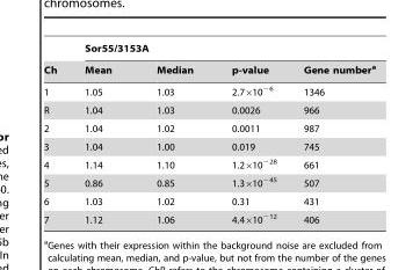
<table><thead><tr><td rowspan="2">Ch</td><td colspan="4">Sor55/3153A</td></tr><tr><td>Mean</td><td>Median</td><td>p-value</td><td>Gene number<sup>a</sup></td></tr></thead><tbody><tr><td>1</td><td>1.05</td><td>1.03</td><td>2.7×10<sup>−6</sup></td><td>1346</td></tr><tr><td>R</td><td>1.04</td><td>1.03</td><td>0.0026</td><td>966</td></tr><tr><td>2</td><td>1.04</td><td>1.02</td><td>0.0011</td><td>987</td></tr><tr><td>3</td><td>1.04</td><td>1.00</td><td>0.019</td><td>745</td></tr><tr><td>4</td><td>1.14</td><td>1.10</td><td>1.2×10<sup>−28</sup></td><td>661</td></tr><tr><td>5</td><td>0.86</td><td>0.85</td><td>1.3×10<sup>−45</sup></td><td>507</td></tr><tr><td>6</td><td>1.03</td><td>1.02</td><td>0.31</td><td>431</td></tr><tr><td>7</td><td>1.12</td><td>1.06</td><td>4.4×10<sup>−12</sup></td><td>406</td></tr></tbody></table>